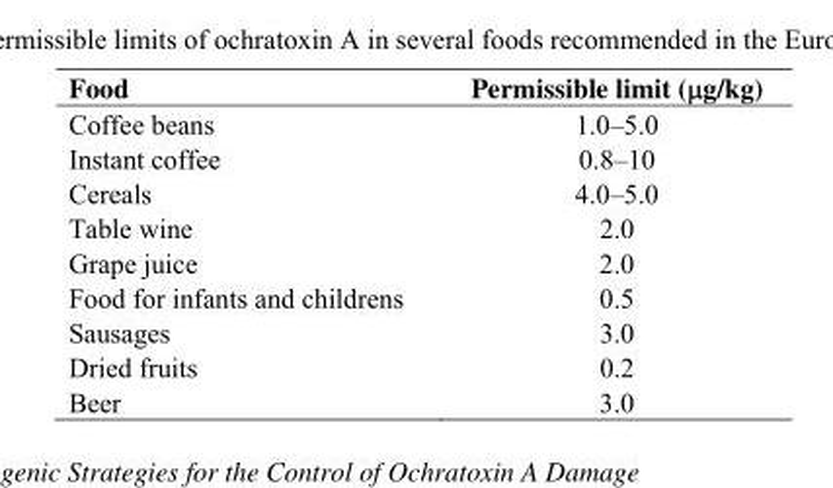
<table><thead><tr><td>Food</td><td>Permissible limit (μg/kg)</td></tr></thead><tbody><tr><td>Coffee beans</td><td>1.0–5.0</td></tr><tr><td>Instant coffee</td><td>0.8–10</td></tr><tr><td>Cereals</td><td>4.0–5.0</td></tr><tr><td>Table wine</td><td>2.0</td></tr><tr><td>Grape juice</td><td>2.0</td></tr><tr><td>Food for infants and childrens</td><td>0.5</td></tr><tr><td>Sausages</td><td>3.0</td></tr><tr><td>Dried fruits</td><td>0.2</td></tr><tr><td>Beer</td><td>3.0</td></tr></tbody></table>